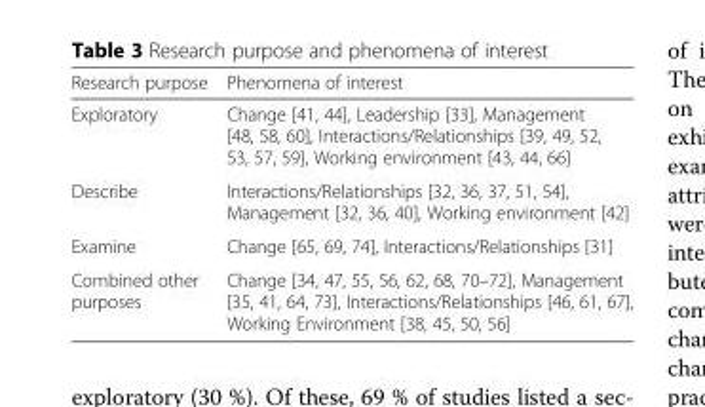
<table><thead><tr><td>Research purpose</td><td>Phenomena of interest</td></tr></thead><tbody><tr><td>Exploratory</td><td>Change [41, 44], Leadership [33], Management [48, 58, 60], Interactions/Relationships [39, 49, 52, 53, 57, 59], Working environment [43, 44, 66]</td></tr><tr><td>Describe</td><td>Interactions/Relationships [32, 36, 37, 51, 54], Management [32, 36, 40], Working environment [42]</td></tr><tr><td>Examine</td><td>Change [65, 69, 74], Interactions/Relationships [31]</td></tr><tr><td>Combined other purposes</td><td>Change [34, 47, 55, 56, 62, 68, 70–72], Management [35, 41, 64, 73], Interactions/Relationships [46, 61, 67], Working Environment [38, 45, 50, 56]</td></tr></tbody></table>